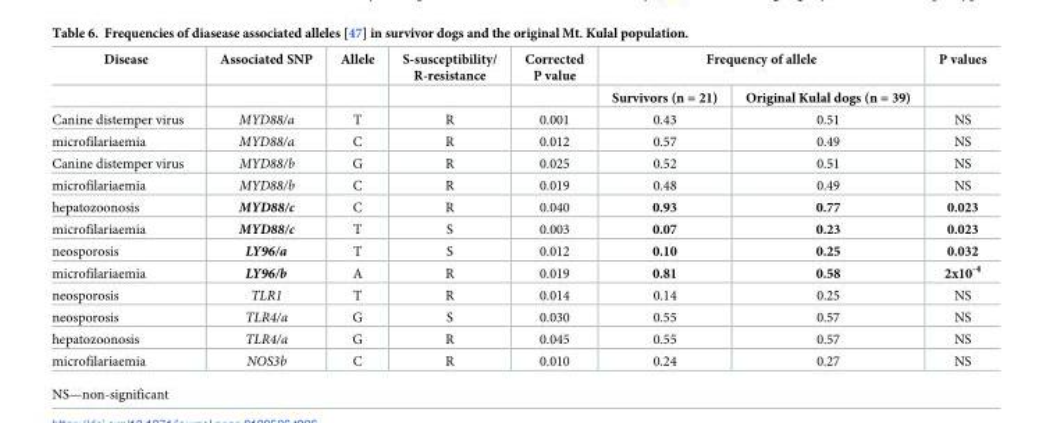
<table><thead><tr><td rowspan="2">Disease</td><td rowspan="2">Associated SNP</td><td rowspan="2">Allele</td><td rowspan="2">S-susceptibility/ R-resistance</td><td rowspan="2">Corrected P value</td><td colspan="2">Frequency of allele</td><td rowspan="2">P values</td></tr><tr><td>Survivors (n = 21)</td><td>Original Kulal dogs (n = 39)</td></tr></thead><tbody><tr><td>Canine distemper virus</td><td>MYD88/a</td><td>T</td><td>R</td><td>0.001</td><td>0.43</td><td>0.51</td><td>NS</td></tr><tr><td>microfilariaemia</td><td>MYD88/a</td><td>C</td><td>R</td><td>0.012</td><td>0.57</td><td>0.49</td><td>NS</td></tr><tr><td>Canine distemper virus</td><td>MYD88/b</td><td>G</td><td>R</td><td>0.025</td><td>0.52</td><td>0.51</td><td>NS</td></tr><tr><td>microfilariaemia</td><td>MYD88/b</td><td>C</td><td>R</td><td>0.019</td><td>0.48</td><td>0.49</td><td>NS</td></tr><tr><td>hepatozoonosis</td><td>MYD88/c</td><td>C</td><td>R</td><td>0.040</td><td>0.93</td><td>0.77</td><td>0.023</td></tr><tr><td>microfilariaemia</td><td>MYD88/c</td><td>T</td><td>S</td><td>0.003</td><td>0.07</td><td>0.23</td><td>0.023</td></tr><tr><td>neosporosis</td><td>LY96/a</td><td>T</td><td>S</td><td>0.012</td><td>0.10</td><td>0.25</td><td>0.032</td></tr><tr><td>microfilariaemia</td><td>LY96/b</td><td>A</td><td>R</td><td>0.019</td><td>0.81</td><td>0.58</td><td>2x10<sup>-4</sup></td></tr><tr><td>neosporosis</td><td>TLR1</td><td>T</td><td>R</td><td>0.014</td><td>0.14</td><td>0.25</td><td>NS</td></tr><tr><td>neosporosis</td><td>TLR4/a</td><td>G</td><td>S</td><td>0.030</td><td>0.55</td><td>0.57</td><td>NS</td></tr><tr><td>hepatozoonosis</td><td>TLR4/a</td><td>G</td><td>R</td><td>0.045</td><td>0.55</td><td>0.57</td><td>NS</td></tr><tr><td>microfilariaemia</td><td>NOS3b</td><td>C</td><td>R</td><td>0.010</td><td>0.24</td><td>0.27</td><td>NS</td></tr></tbody></table>